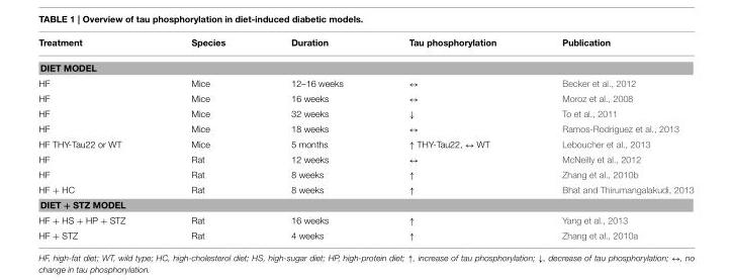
<table><thead><tr><td>Treatment</td><td>Species</td><td>Duration</td><td>Tau phosphorylation</td><td>Publication</td></tr></thead><tbody><tr><td colspan="5">DIET MODEL</td></tr><tr><td>HF</td><td>Mice</td><td>12–16 weeks</td><td>↔</td><td>Becker et al., 2012</td></tr><tr><td>HF</td><td>Mice</td><td>16 weeks</td><td>↔</td><td>Moroz et al., 2008</td></tr><tr><td>HF</td><td>Mice</td><td>32 weeks</td><td>↓</td><td>To et al., 2011</td></tr><tr><td>HF</td><td>Mice</td><td>18 weeks</td><td>↔</td><td>Ramos-Rodriguez et al., 2013</td></tr><tr><td>HF THY-Tau22 or WT</td><td>Mice</td><td>5 months</td><td>↑ THY-Tau22, ↔ WT</td><td>Leboucher et al., 2013</td></tr><tr><td>HF</td><td>Rat</td><td>12 weeks</td><td>↔</td><td>McNeilly et al., 2012</td></tr><tr><td>HF</td><td>Rat</td><td>8 weeks</td><td>↑</td><td>Zhang et al., 2010b</td></tr><tr><td>HF + HC</td><td>Rat</td><td>8 weeks</td><td>↑</td><td>Bhat and Thirumangalakudi, 2013</td></tr><tr><td colspan="5">DIET + STZ MODEL</td></tr><tr><td>HF + HS + HP + STZ</td><td>Rat</td><td>16 weeks</td><td>↑</td><td>Yang et al., 2013</td></tr><tr><td>HF + STZ</td><td>Rat</td><td>4 weeks</td><td>↑</td><td>Zhang et al., 2010a</td></tr></tbody></table>